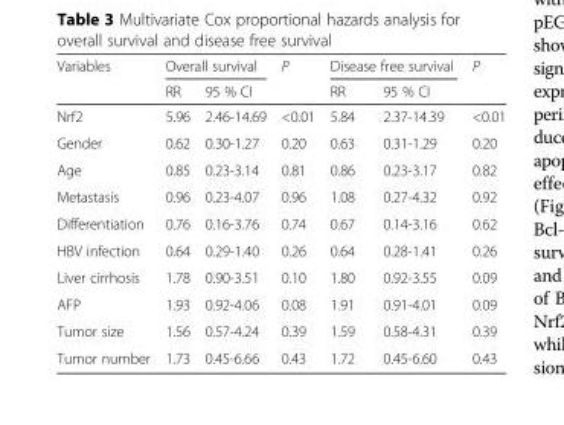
<table><thead><tr><td rowspan="2">Variables</td><td colspan="2">Overall survival</td><td rowspan="2">P</td><td colspan="2">Disease free survival</td><td rowspan="2">P</td></tr><tr><td>RR</td><td>95 % CI</td><td>RR</td><td>95 % CI</td></tr></thead><tbody><tr><td>Nrf2</td><td>5.96</td><td>2.46-14.69</td><td>&lt;0.01</td><td>5.84</td><td>2.37-14.39</td><td>&lt;0.01</td></tr><tr><td>Gender</td><td>0.62</td><td>0.30-1.27</td><td>0.20</td><td>0.63</td><td>0.31-1.29</td><td>0.20</td></tr><tr><td>Age</td><td>0.85</td><td>0.23-3.14</td><td>0.81</td><td>0.86</td><td>0.23-3.17</td><td>0.82</td></tr><tr><td>Metastasis</td><td>0.96</td><td>0.23-4.07</td><td>0.96</td><td>1.08</td><td>0.27-4.32</td><td>0.92</td></tr><tr><td>Differentiation</td><td>0.76</td><td>0.16-3.76</td><td>0.74</td><td>0.67</td><td>0.14-3.16</td><td>0.62</td></tr><tr><td>HBV infection</td><td>0.64</td><td>0.29-1.40</td><td>0.26</td><td>0.64</td><td>0.28-1.41</td><td>0.26</td></tr><tr><td>Liver cirrhosis</td><td>1.78</td><td>0.90-3.51</td><td>0.10</td><td>1.80</td><td>0.92-3.55</td><td>0.09</td></tr><tr><td>AFP</td><td>1.93</td><td>0.92-4.06</td><td>0.08</td><td>1.91</td><td>0.91-4.01</td><td>0.09</td></tr><tr><td>Tumor size</td><td>1.56</td><td>0.57-4.24</td><td>0.39</td><td>1.59</td><td>0.58-4.31</td><td>0.39</td></tr><tr><td>Tumor number</td><td>1.73</td><td>0.45-6.66</td><td>0.43</td><td>1.72</td><td>0.45-6.60</td><td>0.43</td></tr></tbody></table>